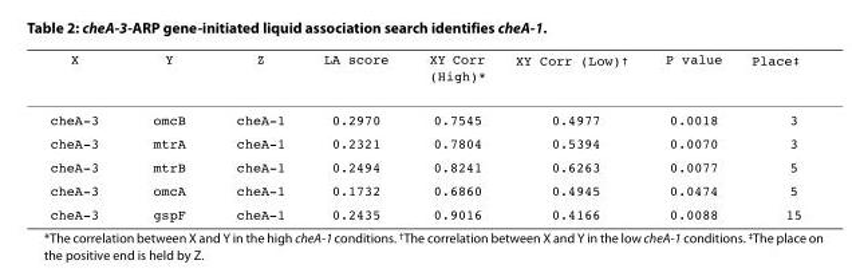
<table><thead><tr><td>X</td><td>Y</td><td>Z</td><td>LA score</td><td>XY Corr (High)*</td><td>XY Corr (Low)<sup>†</sup></td><td>P value</td><td>Place<sup>‡</sup></td></tr></thead><tbody><tr><td>cheA-3</td><td>omcB</td><td>cheA-1</td><td>0.2970</td><td>0.7545</td><td>0.4977</td><td>0.0018</td><td>3</td></tr><tr><td>cheA-3</td><td>mtrA</td><td>cheA-1</td><td>0.2321</td><td>0.7804</td><td>0.5394</td><td>0.0070</td><td>3</td></tr><tr><td>cheA-3</td><td>mtrB</td><td>cheA-1</td><td>0.2494</td><td>0.8241</td><td>0.6263</td><td>0.0077</td><td>5</td></tr><tr><td>cheA-3</td><td>omcA</td><td>cheA-1</td><td>0.1732</td><td>0.6860</td><td>0.4945</td><td>0.0474</td><td>5</td></tr><tr><td>cheA-3</td><td>gspF</td><td>cheA-1</td><td>0.2435</td><td>0.9016</td><td>0.4166</td><td>0.0088</td><td>15</td></tr></tbody></table>